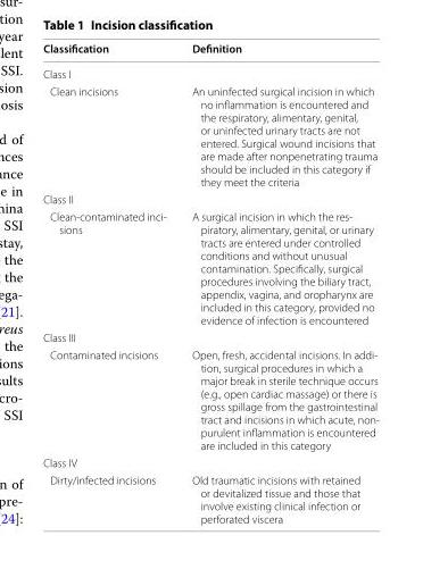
<table><thead><tr><td>Classification</td><td>Definition</td></tr></thead><tbody><tr><td colspan="2">Class I</td></tr><tr><td>Clean incisions</td><td>An uninfected surgical incision in which no inflammation is encountered and the respiratory, alimentary, genital, or uninfected urinary tracts are not entered. Surgical wound incisions that are made after nonpenetrating trauma should be included in this category if they meet the criteria</td></tr><tr><td colspan="2">Class II</td></tr><tr><td>Clean-contaminated inci- sions</td><td>A surgical incision in which the res- piratory, alimentary, genital, or urinary tracts are entered under controlled conditions and without unusual contamination. Specifically, surgical procedures involving the biliary tract, appendix, vagina, and oropharynx are included in this category, provided no evidence of infection is encountered</td></tr><tr><td colspan="2">Class III</td></tr><tr><td>Contaminated incisions</td><td>Open, fresh, accidental incisions. In addi- tion, surgical procedures in which a major break in sterile technique occurs (e.g., open cardiac massage) or there is gross spillage from the gastrointestinal tract and incisions in which acute, non- purulent inflammation is encountered are included in this category</td></tr><tr><td colspan="2">Class IV</td></tr><tr><td>Dirty/infected incisions</td><td>Old traumatic incisions with retained or devitalized tissue and those that involve existing clinical infection or perforated viscera</td></tr></tbody></table>